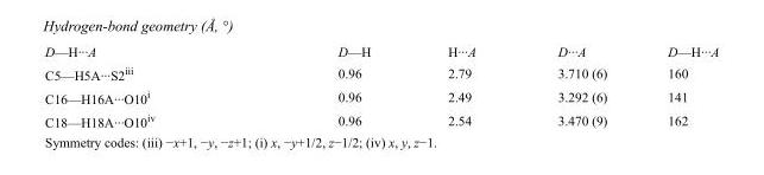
<table><tbody><tr><td>D—H···A</td><td>D—H</td><td>H···A</td><td>D···A</td><td>D—H···A</td></tr><tr><td>C5—H5A···S2<sup>iii</sup></td><td>0.96</td><td>2.79</td><td>3.710 (6)</td><td>160</td></tr><tr><td>C16—H16A···O10<sup>i</sup></td><td>0.96</td><td>2.49</td><td>3.292 (6)</td><td>141</td></tr><tr><td>C18—H18A···O10<sup>iv</sup></td><td>0.96</td><td>2.54</td><td>3.470 (9)</td><td>162</td></tr></tbody></table>